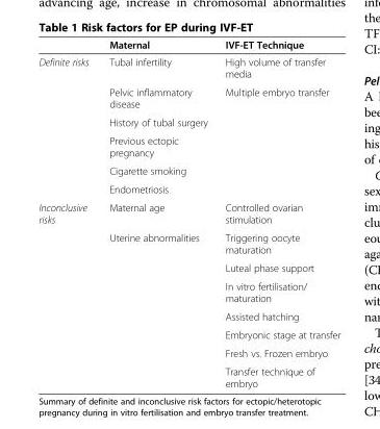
<table><thead><tr><td></td><td>Maternal</td><td>IVF-ET Technique</td></tr></thead><tbody><tr><td rowspan="6">Definite risks</td><td>Tubal infertility</td><td>High volume of transfer media</td></tr><tr><td>Pelvic inflammatory disease</td><td>Multiple embryo transfer</td></tr><tr><td>History of tubal surgery</td><td></td></tr><tr><td>Previous ectopic pregnancy</td><td></td></tr><tr><td>Cigarette smoking</td><td></td></tr><tr><td>Endometriosis</td><td></td></tr><tr><td rowspan="8">Inconclusive risks</td><td>Maternal age</td><td>Controlled ovarian stimulation</td></tr><tr><td rowspan="7">Uterine abnormalities</td><td>Triggering oocyte maturation</td></tr><tr><td>Luteal phase support</td></tr><tr><td>In vitro fertilisation/ maturation</td></tr><tr><td>Assisted hatching</td></tr><tr><td>Embryonic stage at transfer</td></tr><tr><td>Fresh vs. Frozen embryo</td></tr><tr><td>Transfer technique of embryo</td></tr></tbody></table>